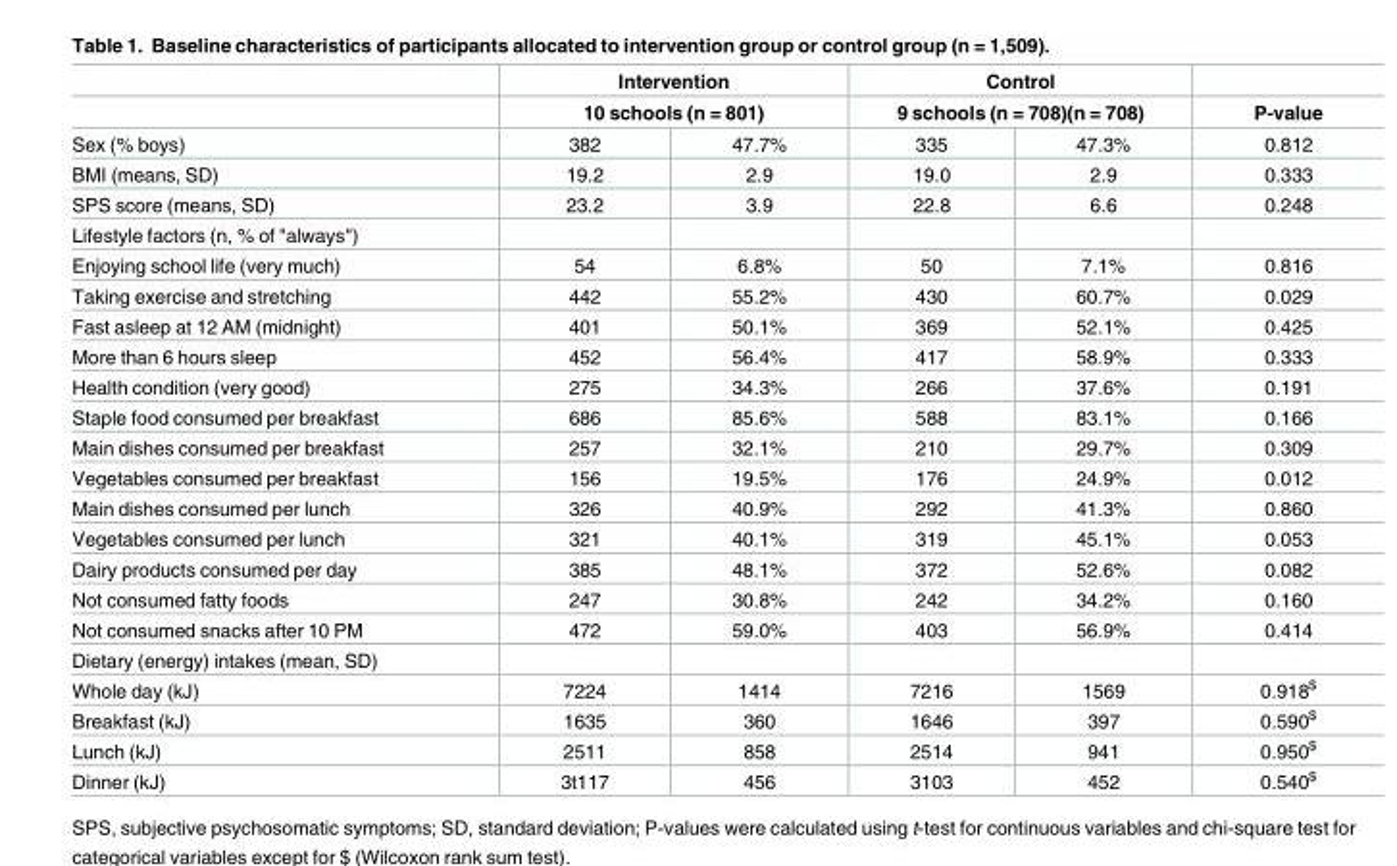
<table><thead><tr><td rowspan="3">Sex (% boys)</td><td rowspan="2" colspan="2">Intervention 10 schools (n = 801)</td><td rowspan="2" colspan="2">Control 9 schools (n = 708)(n = 708)</td><td rowspan="3">P-value 0.812</td></tr><tr></tr><tr><td>382</td><td>47.7%</td><td>335</td><td>47.3%</td></tr></thead><tbody><tr><td>BMI (means, SD)</td><td>19.2</td><td>2.9</td><td>19.0</td><td>2.9</td><td>0.333</td></tr><tr><td>SPS score (means, SD)</td><td>23.2</td><td>3.9</td><td>22.8</td><td>6.6</td><td>0.248</td></tr><tr><td colspan="6">Lifestyle factors (n, % of &quot;always&quot;)</td></tr><tr><td>Enjoying school life (very much)</td><td>54</td><td>6.8%</td><td>50</td><td>7.1%</td><td>0.816</td></tr><tr><td>Taking exercise and stretching</td><td>442</td><td>55.2%</td><td>430</td><td>60.7%</td><td>0.029</td></tr><tr><td>Fast asleep at 12 AM (midnight)</td><td>401</td><td>50.1%</td><td>369</td><td>52.1%</td><td>0.425</td></tr><tr><td>More than 6 hours sleep</td><td>452</td><td>56.4%</td><td>417</td><td>58.9%</td><td>0.333</td></tr><tr><td>Health condition (very good)</td><td>275</td><td>34.3%</td><td>266</td><td>37.6%</td><td>0.191</td></tr><tr><td>Staple food consumed per breakfast</td><td>686</td><td>85.6%</td><td>588</td><td>83.1%</td><td>0.166</td></tr><tr><td>Main dishes consumed per breakfast</td><td>257</td><td>32.1%</td><td>210</td><td>29.7%</td><td>0.309</td></tr><tr><td>Vegetables consumed per breakfast</td><td>156</td><td>19.5%</td><td>176</td><td>24.9%</td><td>0.012</td></tr><tr><td>Main dishes consumed per lunch</td><td>326</td><td>40.9%</td><td>292</td><td>41.3%</td><td>0.860</td></tr><tr><td>Vegetables consumed per lunch</td><td>321</td><td>40.1%</td><td>319</td><td>45.1%</td><td>0.053</td></tr><tr><td>Dairy products consumed per day</td><td>385</td><td>48.1%</td><td>372</td><td>52.6%</td><td>0.082</td></tr><tr><td>Not consumed fatty foods</td><td>247</td><td>30.8%</td><td>242</td><td>34.2%</td><td>0.160</td></tr><tr><td>Not consumed snacks after 10 PM</td><td>472</td><td>59.0%</td><td>403</td><td>56.9%</td><td>0.414</td></tr><tr><td colspan="6">Dietary (energy) intakes (mean, SD)</td></tr><tr><td>Whole day (kJ)</td><td>7224</td><td>1414</td><td>7216</td><td>1569</td><td>0.918<sup>$</sup></td></tr><tr><td>Breakfast (kJ)</td><td>1635</td><td>360</td><td>1646</td><td>397</td><td>0.590<sup>$</sup></td></tr><tr><td>Lunch (kJ)</td><td>2511</td><td>858</td><td>2514</td><td>941</td><td>0.950<sup>$</sup></td></tr><tr><td>Dinner (kJ)</td><td>3t117</td><td>456</td><td>3103</td><td>452</td><td>0.540<sup>$</sup></td></tr></tbody></table>